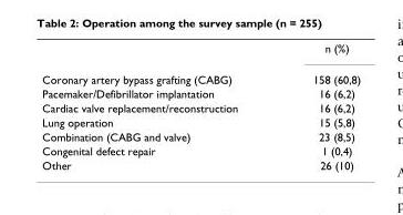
<table><thead><tr><td></td><td>n (%)</td></tr></thead><tbody><tr><td>Coronary artery bypass grafting (CABG)</td><td>158 (60,8)</td></tr><tr><td>Pacemaker/Defibrillator implantation</td><td>16 (6,2)</td></tr><tr><td>Cardiac valve replacement/reconstruction</td><td>16 (6,2)</td></tr><tr><td>Lung operation</td><td>15 (5,8)</td></tr><tr><td>Combination (CABG and valve)</td><td>23 (8,5)</td></tr><tr><td>Congenital defect repair</td><td>1 (0,4)</td></tr><tr><td>Other</td><td>26 (10)</td></tr></tbody></table>